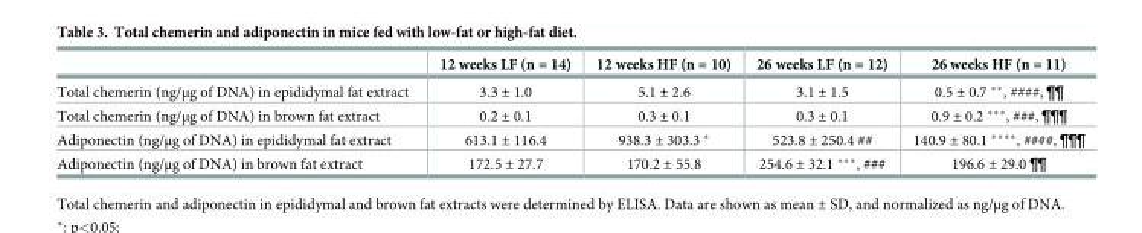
<table><thead><tr><td></td><td>12 weeks LF (n = 14)</td><td>12 weeks HF (n = 10)</td><td>26 weeks LF (n = 12)</td><td>26 weeks HF (n = 11)</td></tr></thead><tbody><tr><td>Total chemerin (ng/μg of DNA) in epididymal fat extract</td><td>3.3 ± 1.0</td><td>5.1 ± 2.6</td><td>3.1 ± 1.5</td><td>0.5 ± 0.7 **, ####, ¶¶</td></tr><tr><td>Total chemerin (ng/μg of DNA) in brown fat extract</td><td>0.2 ± 0.1</td><td>0.3 ± 0.1</td><td>0.3 ± 0.1</td><td>0.9 ± 0.2 ***, ###, ¶¶¶</td></tr><tr><td>Adiponectin (ng/μg of DNA) in epididymal fat extract</td><td>613.1 ± 116.4</td><td>938.3 ± 303.3 *</td><td>523.8 ± 250.4 ##</td><td>140.9 ± 80.1 ****, ####, ¶¶¶</td></tr><tr><td>Adiponectin (ng/μg of DNA) in brown fat extract</td><td>172.5 ± 27.7</td><td>170.2 ± 55.8</td><td>254.6 ± 32.1 ***, ###</td><td>196.6 ± 29.0 ¶¶</td></tr></tbody></table>